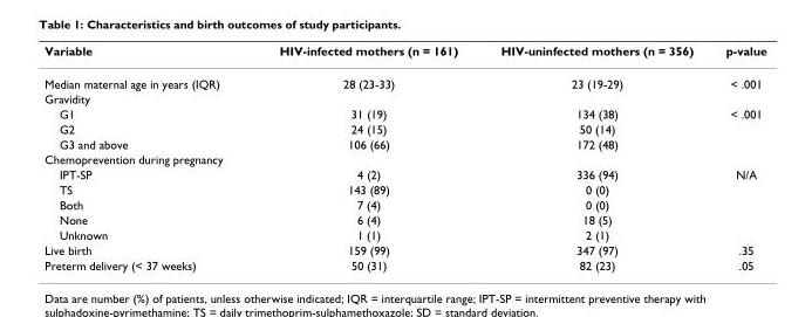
<table><thead><tr><td>Variable</td><td>HIV-infected mothers (n = 161)</td><td>HIV-uninfected mothers (n = 356)</td><td>p-value</td></tr></thead><tbody><tr><td>Median maternal age in years (IQR)</td><td>28 (23-33)</td><td>23 (19-29)</td><td>&lt; .001</td></tr><tr><td colspan="4">Gravidity</td></tr><tr><td>G1</td><td>31 (19)</td><td>134 (38)</td><td>&lt; .001</td></tr><tr><td>G2</td><td>24 (15)</td><td>50 (14)</td><td></td></tr><tr><td>G3 and above</td><td>106 (66)</td><td>172 (48)</td><td></td></tr><tr><td colspan="4">Chemoprevention during pregnancy</td></tr><tr><td>IPT-SP</td><td>4 (2)</td><td>336 (94)</td><td>N/A</td></tr><tr><td>TS</td><td>143 (89)</td><td>0 (0)</td><td></td></tr><tr><td>Both</td><td>7 (4)</td><td>0 (0)</td><td></td></tr><tr><td>None</td><td>6 (4)</td><td>18 (5)</td><td></td></tr><tr><td>Unknown</td><td>1 (1)</td><td>2 (1)</td><td></td></tr><tr><td>Live birth</td><td>159 (99)</td><td>347 (97)</td><td>.35</td></tr><tr><td>Preterm delivery (&lt; 37 weeks)</td><td>50 (31)</td><td>82 (23)</td><td>.05</td></tr></tbody></table>